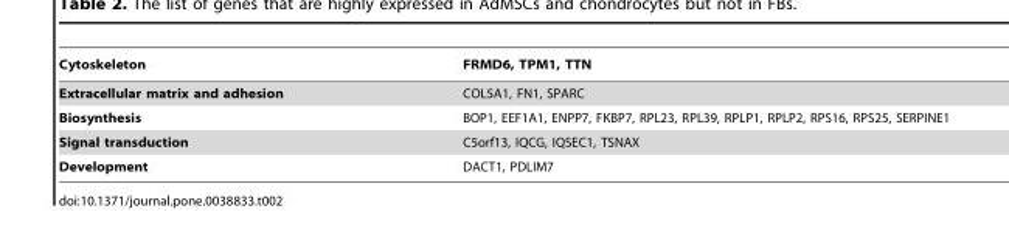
<table><thead><tr><td>Cytoskeleton</td><td>FRMD6, TPM1, TTN</td></tr></thead><tbody><tr><td>Extracellular matrix and adhesion</td><td>COL5A1, FN1, SPARC</td></tr><tr><td>Biosynthesis</td><td>BOP1, EEF1A1, ENPP7, FKBP7, RPL23, RPL39, RPLP1, RPLP2, RPS16, RPS25, SERPINE1</td></tr><tr><td>Signal transduction</td><td>C5orf13, IQCG, IQSEC1, TSNAX</td></tr><tr><td>Development</td><td>DACT1, PDLIM7</td></tr></tbody></table>